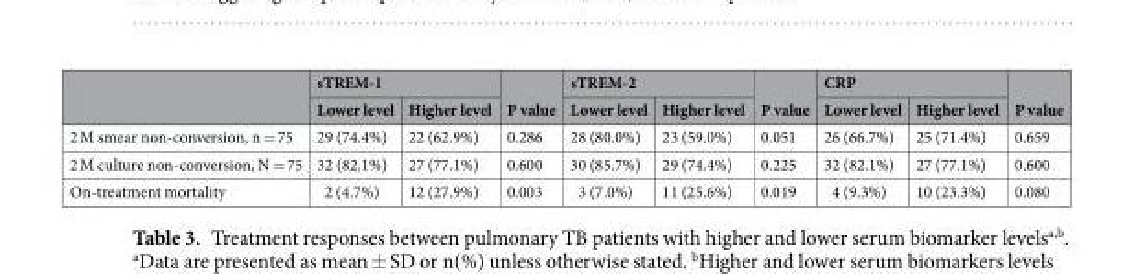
<table><thead><tr><td rowspan="2"></td><td colspan="2">sTREM-1</td><td rowspan="2">P value</td><td colspan="2">sTREM-2</td><td rowspan="2">P value</td><td colspan="2">CRP</td><td rowspan="2">P value</td></tr><tr><td>Lower level</td><td>Higher level</td><td>Lower level</td><td>Higher level</td><td>Lower level</td><td>Higher level</td></tr></thead><tbody><tr><td>2 M smear non-conversion, n = 75</td><td>29 (74.4%)</td><td>22 (62.9%)</td><td>0.286</td><td>28 (80.0%)</td><td>23 (59.0%)</td><td>0.051</td><td>26 (66.7%)</td><td>25 (71.4%)</td><td>0.659</td></tr><tr><td>2 M culture non-conversion, N = 75</td><td>32 (82.1%)</td><td>27 (77.1%)</td><td>0.600</td><td>30 (85.7%)</td><td>29 (74.4%)</td><td>0.225</td><td>32 (82.1%)</td><td>27 (77.1%)</td><td>0.600</td></tr><tr><td>On-treatment mortality</td><td>2 (4.7%)</td><td>12 (27.9%)</td><td>0.003</td><td>3 (7.0%)</td><td>11 (25.6%)</td><td>0.019</td><td>4 (9.3%)</td><td>10 (23.3%)</td><td>0.080</td></tr></tbody></table>